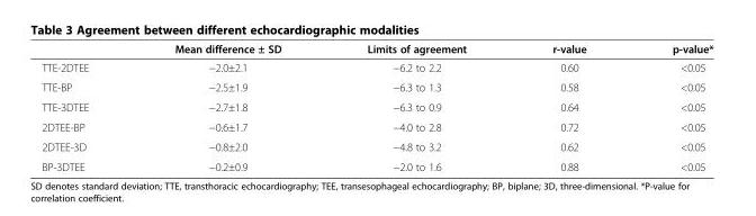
<table><thead><tr><td></td><td>Mean difference ± SD</td><td>Limits of agreement</td><td>r-value</td><td>p-value*</td></tr></thead><tbody><tr><td>TTE-2DTEE</td><td>−2.0±2.1</td><td>−6.2 to 2.2</td><td>0.60</td><td>&lt;0.05</td></tr><tr><td>TTE-BP</td><td>−2.5±1.9</td><td>−6.3 to 1.3</td><td>0.58</td><td>&lt;0.05</td></tr><tr><td>TTE-3DTEE</td><td>−2.7±1.8</td><td>−6.3 to 0.9</td><td>0.64</td><td>&lt;0.05</td></tr><tr><td>2DTEE-BP</td><td>−0.6±1.7</td><td>−4.0 to 2.8</td><td>0.72</td><td>&lt;0.05</td></tr><tr><td>2DTEE-3D</td><td>−0.8±2.0</td><td>−4.8 to 3.2</td><td>0.62</td><td>&lt;0.05</td></tr><tr><td>BP-3DTEE</td><td>−0.2±0.9</td><td>−2.0 to 1.6</td><td>0.88</td><td>&lt;0.05</td></tr></tbody></table>